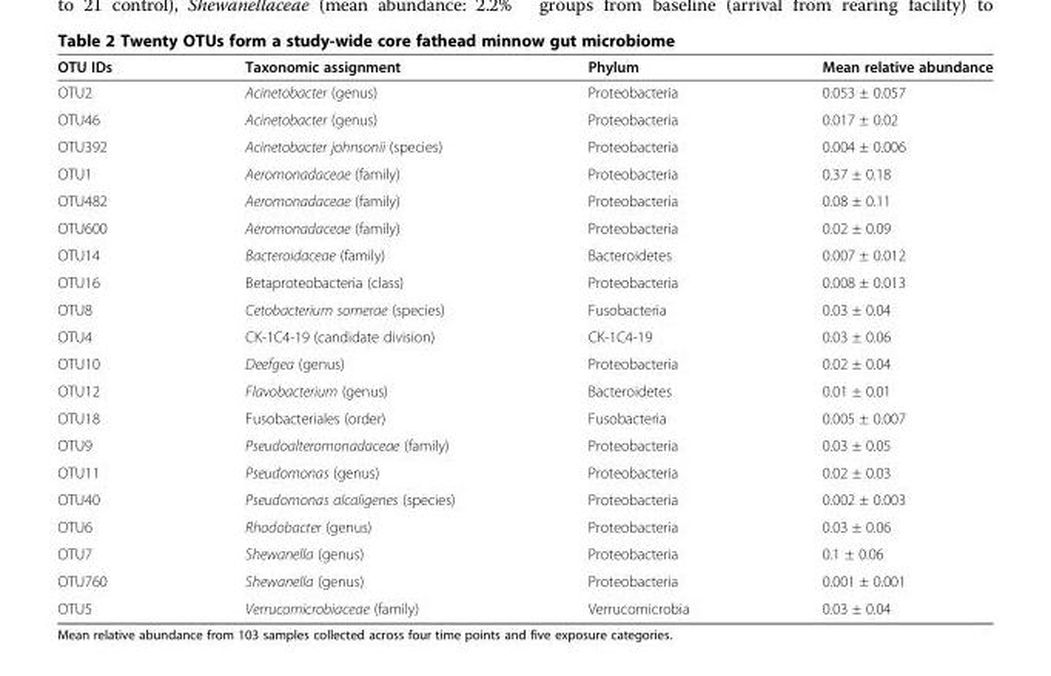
<table><thead><tr><td>OTU IDs</td><td>Taxonomic assignment</td><td>Phylum</td><td>Mean relative abundance</td></tr></thead><tbody><tr><td>OTU2</td><td>Acinetobacter (genus)</td><td>Proteobacteria</td><td>0.053 ± 0.057</td></tr><tr><td>OTU46</td><td>Acinetobacter (genus)</td><td>Proteobacteria</td><td>0.017 ± 0.02</td></tr><tr><td>OTU392</td><td>Acinetobacter johnsonii (species)</td><td>Proteobacteria</td><td>0.004 ± 0.006</td></tr><tr><td>OTU1</td><td>Aeromonadaceae (family)</td><td>Proteobacteria</td><td>0.37 ± 0.18</td></tr><tr><td>OTU482</td><td>Aeromonadaceae (family)</td><td>Proteobacteria</td><td>0.08 ± 0.11</td></tr><tr><td>OTU600</td><td>Aeromonadaceae (family)</td><td>Proteobacteria</td><td>0.02 ± 0.09</td></tr><tr><td>OTU14</td><td>Bacteroidaceae (family)</td><td>Bacteroidetes</td><td>0.007 ± 0.012</td></tr><tr><td>OTU16</td><td>Betaproteobacteria (class)</td><td>Proteobacteria</td><td>0.008 ± 0.013</td></tr><tr><td>OTU8</td><td>Cetobacterium somerae (species)</td><td>Fusobacteria</td><td>0.03 ± 0.04</td></tr><tr><td>OTU4</td><td>CK-1C4-19 (candidate division)</td><td>CK-1C4-19</td><td>0.03 ± 0.06</td></tr><tr><td>OTU10</td><td>Deefgea (genus)</td><td>Proteobacteria</td><td>0.02 ± 0.04</td></tr><tr><td>OTU12</td><td>Flavobacterium (genus)</td><td>Bacteroidetes</td><td>0.01 ± 0.01</td></tr><tr><td>OTU18</td><td>Fusobacteriales (order)</td><td>Fusobacteria</td><td>0.005 ± 0.007</td></tr><tr><td>OTU9</td><td>Pseudoalteromonadaceae (family)</td><td>Proteobacteria</td><td>0.03 ± 0.05</td></tr><tr><td>OTU11</td><td>Pseudomonas (genus)</td><td>Proteobacteria</td><td>0.02 ± 0.03</td></tr><tr><td>OTU40</td><td>Pseudomonas alcaligenes (species)</td><td>Proteobacteria</td><td>0.002 ± 0.003</td></tr><tr><td>OTU6</td><td>Rhodobacter (genus)</td><td>Proteobacteria</td><td>0.03 ± 0.06</td></tr><tr><td>OTU7</td><td>Shewanella (genus)</td><td>Proteobacteria</td><td>0.1 ± 0.06</td></tr><tr><td>OTU760</td><td>Shewanella (genus)</td><td>Proteobacteria</td><td>0.001 ± 0.001</td></tr><tr><td>OTU5</td><td>Verrucomicrobiaceae (family)</td><td>Verrucomicrobia</td><td>0.03 ± 0.04</td></tr></tbody></table>